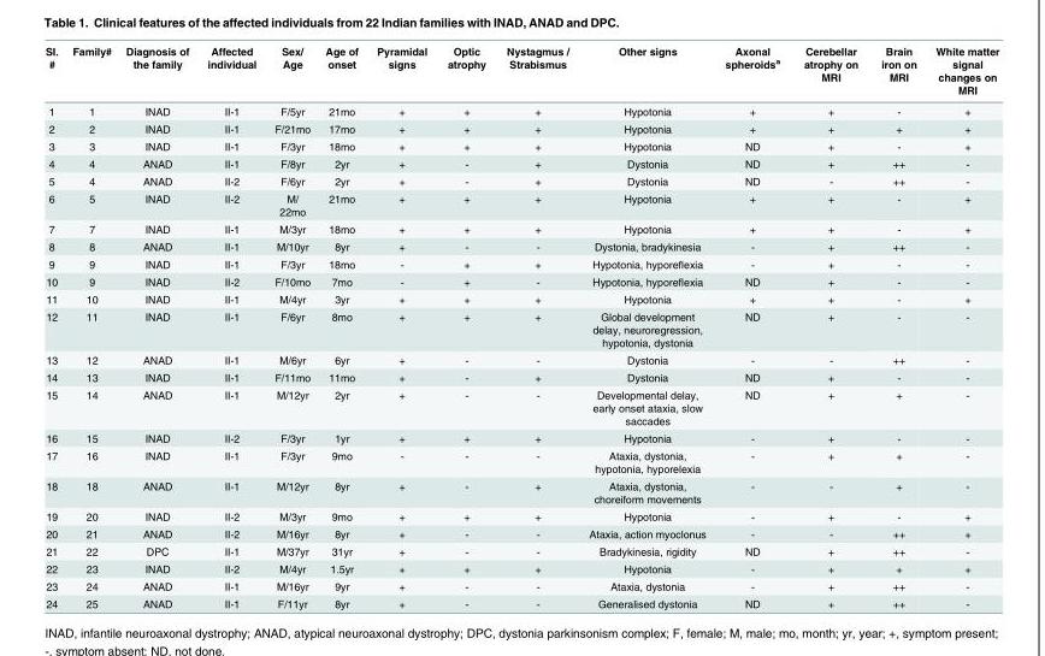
<table><thead><tr><td>SI. #</td><td>Family#</td><td>Diagnosis of the family</td><td>Affected individual</td><td>Sex/ Age</td><td>Age of onset</td><td>Pyramidal signs</td><td>Optic atrophy</td><td>Nystagmus / Strabismus</td><td>Other signs</td><td>Axonal spheroids<sup>a</sup></td><td>Cerebellar atrophy on MRI</td><td>Brain iron on MRI</td><td>White matter signal changes on MRI</td></tr></thead><tbody><tr><td>1</td><td>1</td><td>INAD</td><td>II-1</td><td>F/5yr</td><td>21mo</td><td>+</td><td>+</td><td>+</td><td>Hypotonia</td><td>+</td><td>+</td><td>-</td><td>+</td></tr><tr><td>2</td><td>2</td><td>INAD</td><td>II-1</td><td>F/21mo</td><td>17mo</td><td>+</td><td>+</td><td>+</td><td>Hypotonia</td><td>+</td><td>+</td><td>+</td><td>+</td></tr><tr><td>3</td><td>3</td><td>INAD</td><td>II-1</td><td>F/3yr</td><td>18mo</td><td>+</td><td>+</td><td>+</td><td>Hypotonia</td><td>ND</td><td>+</td><td>-</td><td>+</td></tr><tr><td>4</td><td>4</td><td>ANAD</td><td>II-1</td><td>F/8yr</td><td>2yr</td><td>+</td><td>-</td><td>+</td><td>Dystonia</td><td>ND</td><td>+</td><td>++</td><td>-</td></tr><tr><td>5</td><td>4</td><td>ANAD</td><td>II-2</td><td>F/6yr</td><td>2yr</td><td>+</td><td>-</td><td>+</td><td>Dystonia</td><td>ND</td><td>-</td><td>++</td><td>-</td></tr><tr><td>6</td><td>5</td><td>INAD</td><td>II-2</td><td>M/ 22mo</td><td>21mo</td><td>+</td><td>+</td><td>+</td><td>Hypotonia</td><td>+</td><td>+</td><td>-</td><td>+</td></tr><tr><td>7</td><td>7</td><td>INAD</td><td>II-1</td><td>M/3yr</td><td>18mo</td><td>+</td><td>+</td><td>+</td><td>Hypotonia</td><td>+</td><td>+</td><td>-</td><td>+</td></tr><tr><td>8</td><td>8</td><td>ANAD</td><td>II-1</td><td>M/10yr</td><td>8yr</td><td>+</td><td>-</td><td>-</td><td>Dystonia, bradykinesia</td><td>-</td><td>+</td><td>++</td><td>-</td></tr><tr><td>9</td><td>9</td><td>INAD</td><td>II-1</td><td>F/3yr</td><td>18mo</td><td>-</td><td>+</td><td>+</td><td>Hypotonia, hyporeflexia</td><td>-</td><td>+</td><td>-</td><td>-</td></tr><tr><td>10</td><td>9</td><td>INAD</td><td>II-2</td><td>F/10mo</td><td>7mo</td><td>-</td><td>+</td><td>-</td><td>Hypotonia, hyporeflexia</td><td>ND</td><td>+</td><td>-</td><td>-</td></tr><tr><td>11</td><td>10</td><td>INAD</td><td>II-1</td><td>M/4yr</td><td>3yr</td><td>+</td><td>+</td><td>+</td><td>Hypotonia</td><td>+</td><td>+</td><td>-</td><td>+</td></tr><tr><td>12</td><td>11</td><td>INAD</td><td>II-1</td><td>F/6yr</td><td>8mo</td><td>+</td><td>+</td><td>+</td><td>Global development delay, neuroregression, hypotonia, dystonia</td><td>ND</td><td>+</td><td>-</td><td>-</td></tr><tr><td>13</td><td>12</td><td>ANAD</td><td>II-1</td><td>M/6yr</td><td>6yr</td><td>+</td><td>-</td><td>-</td><td>Dystonia</td><td>-</td><td>-</td><td>++</td><td>-</td></tr><tr><td>14</td><td>13</td><td>INAD</td><td>II-1</td><td>F/11mo</td><td>11mo</td><td>+</td><td>-</td><td>+</td><td>Dystonia</td><td>ND</td><td>+</td><td>-</td><td>-</td></tr><tr><td>15</td><td>14</td><td>ANAD</td><td>II-1</td><td>M/12yr</td><td>2yr</td><td>+</td><td>-</td><td>-</td><td>Developmental delay, early onset ataxia, slow saccades</td><td>ND</td><td>+</td><td>+</td><td>-</td></tr><tr><td>16</td><td>15</td><td>INAD</td><td>II-2</td><td>F/3yr</td><td>1yr</td><td>+</td><td>+</td><td>+</td><td>Hypotonia</td><td>-</td><td>+</td><td>-</td><td>-</td></tr><tr><td>17</td><td>16</td><td>INAD</td><td>II-1</td><td>F/3yr</td><td>9mo</td><td>-</td><td>-</td><td>-</td><td>Ataxia, dystonia, hypotonia, hyporelexia</td><td>-</td><td>+</td><td>+</td><td>-</td></tr><tr><td>18</td><td>18</td><td>ANAD</td><td>II-1</td><td>M/12yr</td><td>8yr</td><td>+</td><td>-</td><td>+</td><td>Ataxia, dystonia, choreiform movements</td><td>-</td><td>-</td><td>+</td><td>-</td></tr><tr><td>19</td><td>20</td><td>INAD</td><td>II-2</td><td>M/3yr</td><td>9mo</td><td>+</td><td>+</td><td>+</td><td>Hypotonia</td><td>-</td><td>+</td><td>-</td><td>+</td></tr><tr><td>20</td><td>21</td><td>ANAD</td><td>II-2</td><td>M/16yr</td><td>8yr</td><td>+</td><td>-</td><td>-</td><td>Ataxia, action myoclonus</td><td>-</td><td>-</td><td>++</td><td>+</td></tr><tr><td>21</td><td>22</td><td>DPC</td><td>II-1</td><td>M/37yr</td><td>31yr</td><td>+</td><td>-</td><td>-</td><td>Bradykinesia, rigidity</td><td>ND</td><td>+</td><td>++</td><td>-</td></tr><tr><td>22</td><td>23</td><td>INAD</td><td>II-2</td><td>M/4yr</td><td>1.5yr</td><td>+</td><td>+</td><td>+</td><td>Hypotonia</td><td>-</td><td>+</td><td>+</td><td>+</td></tr><tr><td>23</td><td>24</td><td>ANAD</td><td>II-1</td><td>M/16yr</td><td>9yr</td><td>+</td><td>-</td><td>-</td><td>Ataxia, dystonia</td><td>-</td><td>+</td><td>++</td><td>-</td></tr><tr><td>24</td><td>25</td><td>ANAD</td><td>II-1</td><td>F/11yr</td><td>8yr</td><td>+</td><td>-</td><td>-</td><td>Generalised dystonia</td><td>ND</td><td>+</td><td>++</td><td>-</td></tr></tbody></table>